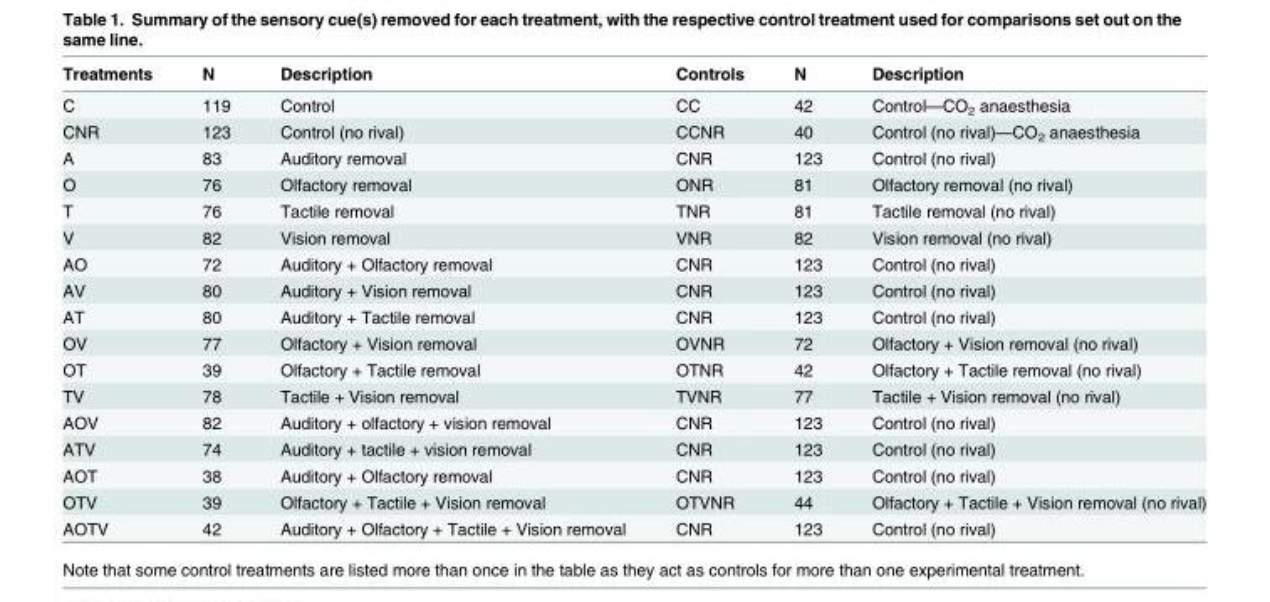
<table><thead><tr><td>Treatments</td><td>N</td><td>Description</td><td>Controls</td><td>N</td><td>Description</td></tr></thead><tbody><tr><td>C</td><td>119</td><td>Control</td><td>CC</td><td>42</td><td>Control—CO<sub>2</sub> anaesthesia</td></tr><tr><td>CNR</td><td>123</td><td>Control (no rival)</td><td>CCNR</td><td>40</td><td>Control (no rival)—CO<sub>2</sub> anaesthesia</td></tr><tr><td>A</td><td>83</td><td>Auditory removal</td><td>CNR</td><td>123</td><td>Control (no rival)</td></tr><tr><td>O</td><td>76</td><td>Olfactory removal</td><td>ONR</td><td>81</td><td>Olfactory removal (no rival)</td></tr><tr><td>T</td><td>76</td><td>Tactile removal</td><td>TNR</td><td>81</td><td>Tactile removal (no rival)</td></tr><tr><td>V</td><td>82</td><td>Vision removal</td><td>VNR</td><td>82</td><td>Vision removal (no rival)</td></tr><tr><td>AO</td><td>72</td><td>Auditory + Olfactory removal</td><td>CNR</td><td>123</td><td>Control (no rival)</td></tr><tr><td>AV</td><td>80</td><td>Auditory + Vision removal</td><td>CNR</td><td>123</td><td>Control (no rival)</td></tr><tr><td>AT</td><td>80</td><td>Auditory + Tactile removal</td><td>CNR</td><td>123</td><td>Control (no rival)</td></tr><tr><td>OV</td><td>77</td><td>Olfactory + Vision removal</td><td>OVNR</td><td>72</td><td>Olfactory + Vision removal (no rival)</td></tr><tr><td>OT</td><td>39</td><td>Olfactory + Tactile removal</td><td>OTNR</td><td>42</td><td>Olfactory + Tactile removal (no rival)</td></tr><tr><td>TV</td><td>78</td><td>Tactile + Vision removal</td><td>TVNR</td><td>77</td><td>Tactile + Vision removal (no rival)</td></tr><tr><td>AOV</td><td>82</td><td>Auditory + olfactory + vision removal</td><td>CNR</td><td>123</td><td>Control (no rival)</td></tr><tr><td>ATV</td><td>74</td><td>Auditory + tactile + vision removal</td><td>CNR</td><td>123</td><td>Control (no rival)</td></tr><tr><td>AOT</td><td>38</td><td>Auditory + Olfactory removal</td><td>CNR</td><td>123</td><td>Control (no rival)</td></tr><tr><td>OTV</td><td>39</td><td>Olfactory + Tactile + Vision removal</td><td>OTVNR</td><td>44</td><td>Olfactory + Tactile + Vision removal (no rival)</td></tr><tr><td>AOTV</td><td>42</td><td>Auditory + Olfactory + Tactile + Vision removal</td><td>CNR</td><td>123</td><td>Control (no rival)</td></tr></tbody></table>